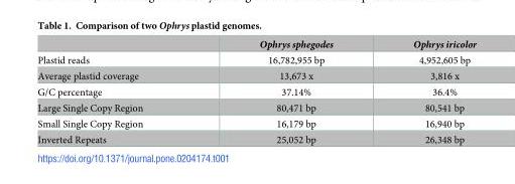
<table><thead><tr><td></td><td>Ophrys sphegodes</td><td>Ophrys iricolor</td></tr></thead><tbody><tr><td>Plastid reads</td><td>16,782,955 bp</td><td>4,952,605 bp</td></tr><tr><td>Average plastid coverage</td><td>13,673 x</td><td>3,816 x</td></tr><tr><td>G/C percentage</td><td>37.14%</td><td>36.4%</td></tr><tr><td>Large Single Copy Region</td><td>80,471 bp</td><td>80,541 bp</td></tr><tr><td>Small Single Copy Region</td><td>16,179 bp</td><td>16,940 bp</td></tr><tr><td>Inverted Repeats</td><td>25,052 bp</td><td>26,348 bp</td></tr></tbody></table>